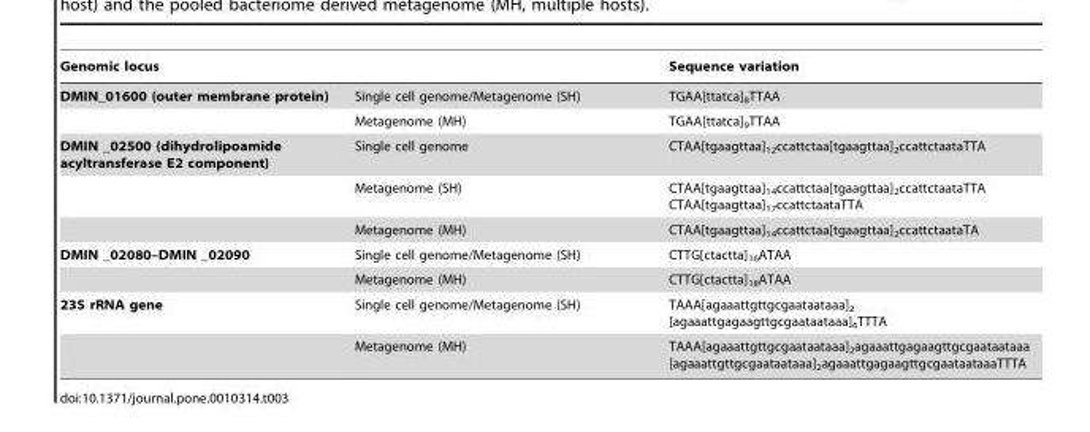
<table><thead><tr><td>Genomic locus</td><td></td><td>Sequence variation</td></tr></thead><tbody><tr><td rowspan="2">DMIN_01600 (outer membrane protein)</td><td>Single cell genome/Metagenome (SH)</td><td>TGAA[ttatca]<sub>8</sub>TTAA</td></tr><tr><td>Metagenome (MH)</td><td>TGAA[ttatca]<sub>9</sub>TTAA</td></tr><tr><td rowspan="3">DMIN _02500 (dihydrolipoamide acyltransferase E2 component)</td><td>Single cell genome</td><td>CTAA[tgaagttaa]<sub>12</sub>ccattctaa[tgaagttaa]<sub>2</sub>ccattctaataTTA</td></tr><tr><td>Metagenome (SH)</td><td>CTAA[tgaagttaa]<sub>14</sub>ccattctaa[tgaagttaa]<sub>2</sub>ccattctaataTTA CTAA[tgaagttaa]<sub>17</sub>ccattctaataTTA</td></tr><tr><td>Metagenome (MH)</td><td>CTAA[tgaagttaa]<sub>14</sub>ccattctaa[tgaagttaa]<sub>2</sub>ccattctaataTA</td></tr><tr><td rowspan="2">DMIN _02080–DMIN _02090</td><td>Single cell genome/Metagenome (SH)</td><td>CTTG[ctactta]<sub>16</sub>ATAA</td></tr><tr><td>Metagenome (MH)</td><td>CTTG[ctactta]<sub>18</sub>ATAA</td></tr><tr><td rowspan="2">23S rRNA gene</td><td>Single cell genome/Metagenome (SH)</td><td>TAAA[agaaattgttgcgaataataaa]<sub>2</sub> [agaaattgagaagttgcgaataataaa]<sub>4</sub>TTTA</td></tr><tr><td>Metagenome (MH)</td><td>TAAA[agaaattgttgcgaataataaa]<sub>2</sub>agaaattgagaagttgcgaataataaa [agaaattgttgcgaataataaa]<sub>2</sub>agaaattgagaagttgcgaataataaaTTTA</td></tr></tbody></table>